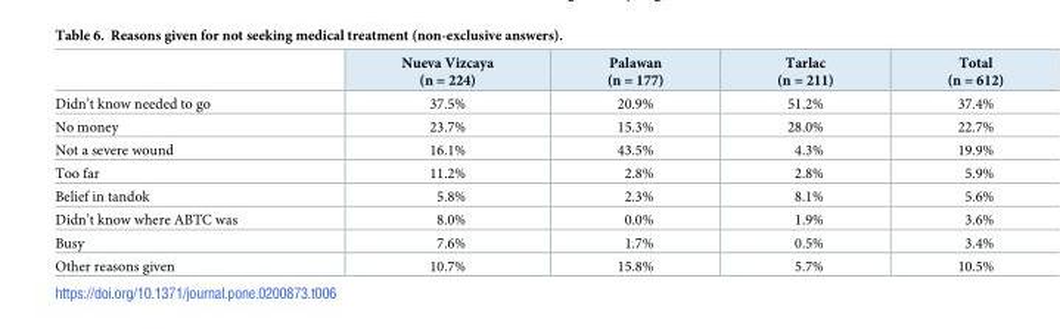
<table><thead><tr><td></td><td>Nueva Vizcaya (n = 224)</td><td>Palawan (n = 177)</td><td>Tarlac (n = 211)</td><td>Total (n = 612)</td></tr></thead><tbody><tr><td>Didn’t know needed to go</td><td>37.5%</td><td>20.9%</td><td>51.2%</td><td>37.4%</td></tr><tr><td>No money</td><td>23.7%</td><td>15.3%</td><td>28.0%</td><td>22.7%</td></tr><tr><td>Not a severe wound</td><td>16.1%</td><td>43.5%</td><td>4.3%</td><td>19.9%</td></tr><tr><td>Too far</td><td>11.2%</td><td>2.8%</td><td>2.8%</td><td>5.9%</td></tr><tr><td>Belief in tandok</td><td>5.8%</td><td>2.3%</td><td>8.1%</td><td>5.6%</td></tr><tr><td>Didn’t know where ABTC was</td><td>8.0%</td><td>0.0%</td><td>1.9%</td><td>3.6%</td></tr><tr><td>Busy</td><td>7.6%</td><td>1.7%</td><td>0.5%</td><td>3.4%</td></tr><tr><td>Other reasons given</td><td>10.7%</td><td>15.8%</td><td>5.7%</td><td>10.5%</td></tr></tbody></table>